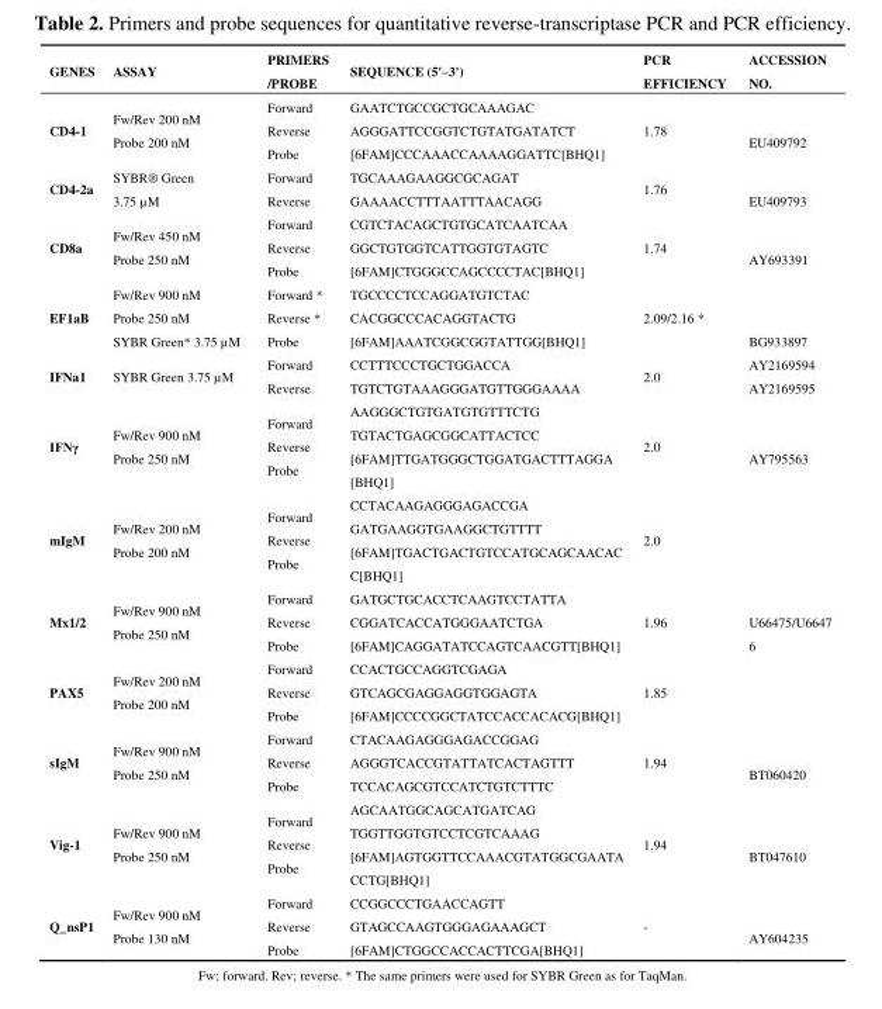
<table><thead><tr><td>GENES</td><td>ASSAY</td><td>PRIMERS /PROBE</td><td>SEQUENCE (5&#x27;–3&#x27;)</td><td>PCR EFFICIENCY</td><td>ACCESSION NO.</td></tr></thead><tbody><tr><td>CD4-1</td><td>Fw/Rev 200 nM Probe 200 nM</td><td>Forward Reverse Probe</td><td>GAATCTGCCGCTGCAAAGAC AGGGATTCCGGTCTGTATGATATCT [6FAM]CCCAAACCAAAAGGATTC[BHQ1]</td><td>1.78</td><td>EU409792</td></tr><tr><td>CD4-2a</td><td>SYBR® Green 3.75 µM</td><td>Forward Reverse</td><td>TGCAAAGAAGGCGCAGAT GAAAACCTTTAATTTAACAGG</td><td>1.76</td><td>EU409793</td></tr><tr><td>CD8a</td><td>Fw/Rev 450 nM Probe 250 nM</td><td>Forward Reverse Probe</td><td>CGTCTACAGCTGTGCATCAATCAA GGCTGTGGTCATTGGTGTAGTC [6FAM]CTGGGCCAGCCCCTAC[BHQ1]</td><td>1.74</td><td>AY693391</td></tr><tr><td>EF1aB</td><td>Fw/Rev 900 nM Probe 250 nM SYBR Green* 3.75 µM</td><td>Forward * Reverse * Probe</td><td>TGCCCCTCCAGGATGTCTAC CACGGCCCACAGGTACTG [6FAM]AAATCGGCGGTATTGG[BHQ1]</td><td>2.09/2.16 *</td><td>BG933897</td></tr><tr><td>IFNa1</td><td>SYBR Green 3.75 µM</td><td>Forward Reverse</td><td>CCTTTCCCTGCTGGACCA TGTCTGTAAAGGGATGTTGGGAAAA</td><td>2.0</td><td>AY2169594 AY2169595</td></tr><tr><td>IFNγ</td><td>Fw/Rev 900 nM Probe 250 nM</td><td>Forward Reverse Probe</td><td>AAGGGCTGTGATGTGTTTCTG TGTACTGAGCGGCATTACTCC [6FAM]TTGATGGGCTGGATGACTTTAGGA [BHQ1]</td><td>2.0</td><td>AY795563</td></tr><tr><td>mIgM</td><td>Fw/Rev 200 nM Probe 200 nM</td><td>Forward Reverse Probe</td><td>CCTACAAGAGGGAGACCGA GATGAAGGTGAAGGCTGTTTT [6FAM]TGACTGACTGTCCATGCAGCAACAC C[BHQ1]</td><td>2.0</td><td></td></tr><tr><td>Mx1/2</td><td>Fw/Rev 900 nM Probe 250 nM</td><td>Forward Reverse Probe</td><td>GATGCTGCACCTCAAGTCCTATTA CGGATCACCATGGGAATCTGA [6FAM]CAGGATATCCAGTCAACGTT[BHQ1]</td><td>1.96</td><td>U66475/U6647 6</td></tr><tr><td>PAX5</td><td>Fw/Rev 200 nM Probe 200 nM</td><td>Forward Reverse Probe</td><td>CCACTGCCAGGTCGAGA GTCAGCGAGGAGGTGGAGTA [6FAM]CCCCGGCTATCCACCACACG[BHQ1]</td><td>1.85</td><td></td></tr><tr><td>sIgM</td><td>Fw/Rev 900 nM Probe 250 nM</td><td>Forward Reverse Probe</td><td>CTACAAGAGGGAGACCGGAG AGGGTCACCGTATTATCACTAGTTT TCCACAGCGTCCATCTGTCTTTC</td><td>1.94</td><td>BT060420</td></tr><tr><td>Vig-1</td><td>Fw/Rev 900 nM Probe 250 nM</td><td>Forward Reverse Probe</td><td>AGCAATGGCAGCATGATCAG TGGTTGGTGTCCTCGTCAAAG [6FAM]AGTGGTTCCAAACGTATGGCGAATA CCTG[BHQ1]</td><td>1.94</td><td>BT047610</td></tr><tr><td>Q_nsP1</td><td>Fw/Rev 900 nM Probe 130 nM</td><td>Forward Reverse Probe</td><td>CCGGCCCTGAACCAGTT GTAGCCAAGTGGGAGAAAGCT [6FAM]CTGGCCACCACTTCGA[BHQ1]</td><td>-</td><td>AY604235</td></tr></tbody></table>